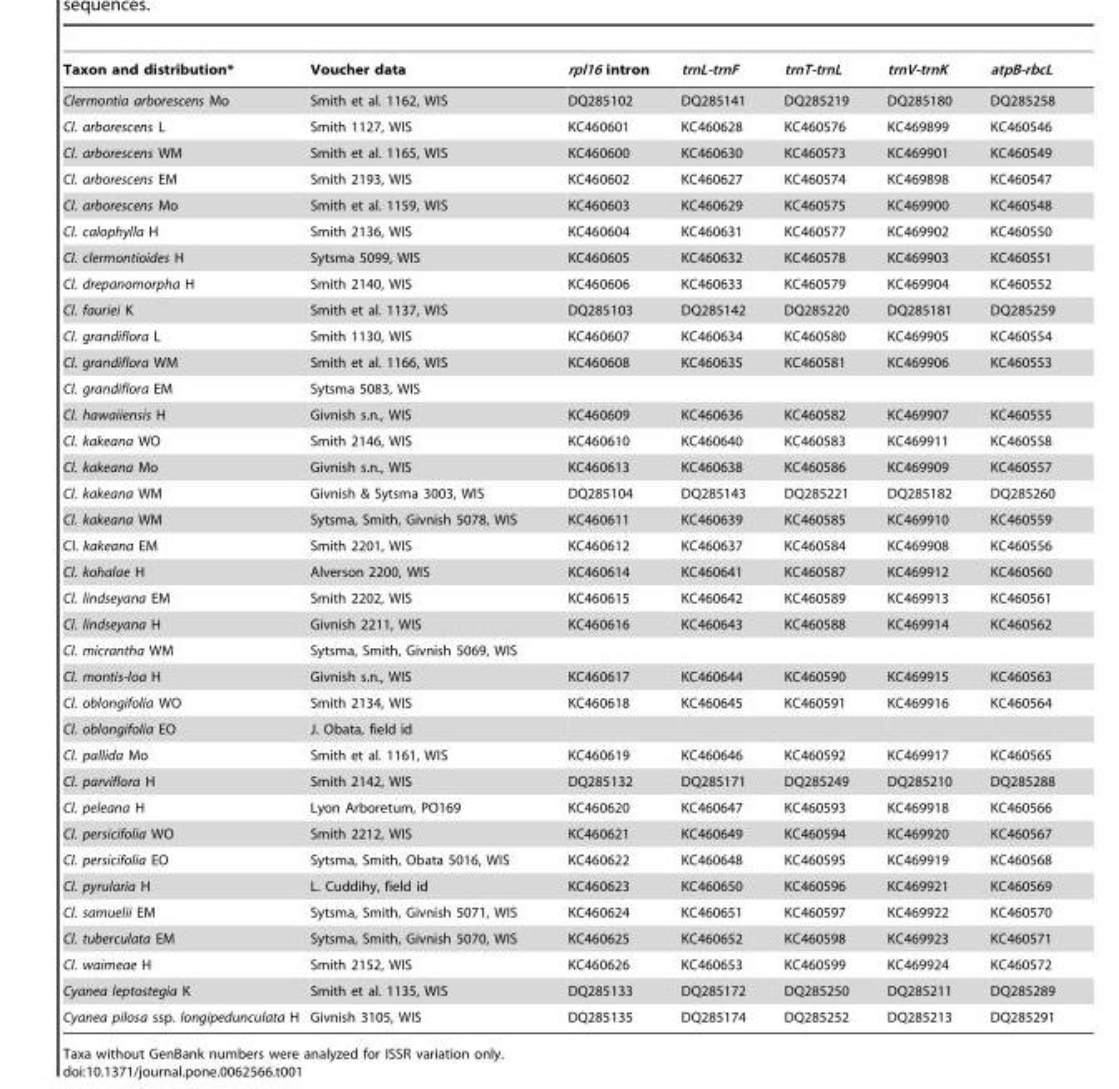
<table><thead><tr><td>Taxon and distribution*</td><td>Voucher data</td><td>rpl16 intron</td><td>trnL-trnF</td><td>trnT-trnL</td><td>trnV-trnK</td><td>atpB-rbcL</td></tr></thead><tbody><tr><td>Clermontia arborescens Mo</td><td>Smith et al. 1162, WIS</td><td>DQ285102</td><td>DQ285141</td><td>DQ285219</td><td>DQ285180</td><td>DQ285258</td></tr><tr><td>Cl. arborescens L</td><td>Smith 1127, WIS</td><td>KC460601</td><td>KC460628</td><td>KC460576</td><td>KC469899</td><td>KC460546</td></tr><tr><td>Cl. arborescens WM</td><td>Smith et al. 1165, WIS</td><td>KC460600</td><td>KC460630</td><td>KC460573</td><td>KC469901</td><td>KC460549</td></tr><tr><td>Cl. arborescens EM</td><td>Smith 2193, WIS</td><td>KC460602</td><td>KC460627</td><td>KC460574</td><td>KC469898</td><td>KC460547</td></tr><tr><td>Cl. arborescens Mo</td><td>Smith et al. 1159, WIS</td><td>KC460603</td><td>KC460629</td><td>KC460575</td><td>KC469900</td><td>KC460548</td></tr><tr><td>Cl. calophylla H</td><td>Smith 2136, WIS</td><td>KC460604</td><td>KC460631</td><td>KC460577</td><td>KC469902</td><td>KC460550</td></tr><tr><td>Cl. clermontioides H</td><td>Sytsma 5099, WIS</td><td>KC460605</td><td>KC460632</td><td>KC460578</td><td>KC469903</td><td>KC460551</td></tr><tr><td>Cl. drepanomorpha H</td><td>Smith 2140, WIS</td><td>KC460606</td><td>KC460633</td><td>KC460579</td><td>KC469904</td><td>KC460552</td></tr><tr><td>Cl. fauriei K</td><td>Smith et al. 1137, WIS</td><td>DQ285103</td><td>DQ285142</td><td>DQ285220</td><td>DQ285181</td><td>DQ285259</td></tr><tr><td>Cl. grandiflora L</td><td>Smith 1130, WIS</td><td>KC460607</td><td>KC460634</td><td>KC460580</td><td>KC469905</td><td>KC460554</td></tr><tr><td>Cl. grandiflora WM</td><td>Smith et al. 1166, WIS</td><td>KC460608</td><td>KC460635</td><td>KC460581</td><td>KC469906</td><td>KC460553</td></tr><tr><td>Cl. grandiflora EM</td><td>Sytsma 5083, WIS</td><td></td><td></td><td></td><td></td><td></td></tr><tr><td>Cl. hawaiiensis H</td><td>Givnish s.n., WIS</td><td>KC460609</td><td>KC460636</td><td>KC460582</td><td>KC469907</td><td>KC460555</td></tr><tr><td>Cl. kakeana WO</td><td>Smith 2146, WIS</td><td>KC460610</td><td>KC460640</td><td>KC460583</td><td>KC469911</td><td>KC460558</td></tr><tr><td>Cl. kakeana Mo</td><td>Givnish s.n., WIS</td><td>KC460613</td><td>KC460638</td><td>KC460586</td><td>KC469909</td><td>KC460557</td></tr><tr><td>Cl. kakeana WM</td><td>Givnish &amp; Sytsma 3003, WIS</td><td>DQ285104</td><td>DQ285143</td><td>DQ285221</td><td>DQ285182</td><td>DQ285260</td></tr><tr><td>Cl. kakeana WM</td><td>Sytsma, Smith, Givnish 5078, WIS</td><td>KC460611</td><td>KC460639</td><td>KC460585</td><td>KC469910</td><td>KC460559</td></tr><tr><td>Cl. kakeana EM</td><td>Smith 2201, WIS</td><td>KC460612</td><td>KC460637</td><td>KC460584</td><td>KC469908</td><td>KC460556</td></tr><tr><td>Cl. kohalae H</td><td>Alverson 2200, WIS</td><td>KC460614</td><td>KC460641</td><td>KC460587</td><td>KC469912</td><td>KC460560</td></tr><tr><td>Cl. lindseyana EM</td><td>Smith 2202, WIS</td><td>KC460615</td><td>KC460642</td><td>KC460589</td><td>KC469913</td><td>KC460561</td></tr><tr><td>Cl. lindseyana H</td><td>Givnish 2211, WIS</td><td>KC460616</td><td>KC460643</td><td>KC460588</td><td>KC469914</td><td>KC460562</td></tr><tr><td>Cl. micrantha WM</td><td>Sytsma, Smith, Givnish 5069, WIS</td><td></td><td></td><td></td><td></td><td></td></tr><tr><td>Cl. montis-loa H</td><td>Givnish s.n., WIS</td><td>KC460617</td><td>KC460644</td><td>KC460590</td><td>KC469915</td><td>KC460563</td></tr><tr><td>Cl. oblongifolia WO</td><td>Smith 2134, WIS</td><td>KC460618</td><td>KC460645</td><td>KC460591</td><td>KC469916</td><td>KC460564</td></tr><tr><td>Cl. oblongifolia EO</td><td>J. Obata, field id</td><td></td><td></td><td></td><td></td><td></td></tr><tr><td>Cl. pallida Mo</td><td>Smith et al. 1161, WIS</td><td>KC460619</td><td>KC460646</td><td>KC460592</td><td>KC469917</td><td>KC460565</td></tr><tr><td>Cl. parviflora H</td><td>Smith 2142, WIS</td><td>DQ285132</td><td>DQ285171</td><td>DQ285249</td><td>DQ285210</td><td>DQ285288</td></tr><tr><td>Cl. peleana H</td><td>Lyon Arboretum, PO169</td><td>KC460620</td><td>KC460647</td><td>KC460593</td><td>KC469918</td><td>KC460566</td></tr><tr><td>Cl. persicifolia WO</td><td>Smith 2212, WIS</td><td>KC460621</td><td>KC460649</td><td>KC460594</td><td>KC469920</td><td>KC460567</td></tr><tr><td>Cl. persicifolia EO</td><td>Sytsma, Smith, Obata 5016, WIS</td><td>KC460622</td><td>KC460648</td><td>KC460595</td><td>KC469919</td><td>KC460568</td></tr><tr><td>Cl. pyrularia H</td><td>L. Cuddihy, field id</td><td>KC460623</td><td>KC460650</td><td>KC460596</td><td>KC469921</td><td>KC460569</td></tr><tr><td>Cl. samuelii EM</td><td>Sytsma, Smith, Givnish 5071, WIS</td><td>KC460624</td><td>KC460651</td><td>KC460597</td><td>KC469922</td><td>KC460570</td></tr><tr><td>Cl. tuberculata EM</td><td>Sytsma, Smith, Givnish 5070, WIS</td><td>KC460625</td><td>KC460652</td><td>KC460598</td><td>KC469923</td><td>KC460571</td></tr><tr><td>Cl. waimeae H</td><td>Smith 2152, WIS</td><td>KC460626</td><td>KC460653</td><td>KC460599</td><td>KC469924</td><td>KC460572</td></tr><tr><td>Cyanea leptostegia K</td><td>Smith et al. 1135, WIS</td><td>DQ285133</td><td>DQ285172</td><td>DQ285250</td><td>DQ285211</td><td>DQ285289</td></tr><tr><td>Cyanea pilosa ssp. longipedunculata H</td><td>Givnish 3105, WIS</td><td>DQ285135</td><td>DQ285174</td><td>DQ285252</td><td>DQ285213</td><td>DQ285291</td></tr></tbody></table>